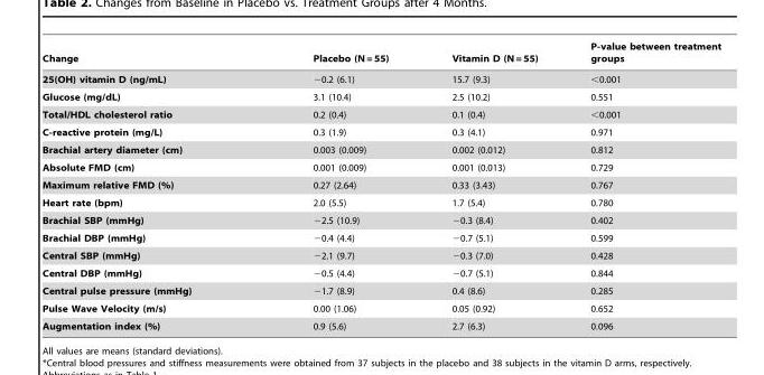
<table><thead><tr><td>Change</td><td>Placebo (N = 55)</td><td>Vitamin D (N = 55)</td><td>P-value between treatment groups</td></tr></thead><tbody><tr><td>25(OH) vitamin D (ng/mL)</td><td>−0.2 (6.1)</td><td>15.7 (9.3)</td><td>&lt;0.001</td></tr><tr><td>Glucose (mg/dL)</td><td>3.1 (10.4)</td><td>2.5 (10.2)</td><td>0.551</td></tr><tr><td>Total/HDL cholesterol ratio</td><td>0.2 (0.4)</td><td>0.1 (0.4)</td><td>&lt;0.001</td></tr><tr><td>C-reactive protein (mg/L)</td><td>0.3 (1.9)</td><td>0.3 (4.1)</td><td>0.971</td></tr><tr><td>Brachial artery diameter (cm)</td><td>0.003 (0.009)</td><td>0.002 (0.012)</td><td>0.812</td></tr><tr><td>Absolute FMD (cm)</td><td>0.001 (0.009)</td><td>0.001 (0.013)</td><td>0.729</td></tr><tr><td>Maximum relative FMD (%)</td><td>0.27 (2.64)</td><td>0.33 (3.43)</td><td>0.767</td></tr><tr><td>Heart rate (bpm)</td><td>2.0 (5.5)</td><td>1.7 (5.4)</td><td>0.780</td></tr><tr><td>Brachial SBP (mmHg)</td><td>−2.5 (10.9)</td><td>−0.3 (8.4)</td><td>0.402</td></tr><tr><td>Brachial DBP (mmHg)</td><td>−0.4 (4.4)</td><td>−0.7 (5.1)</td><td>0.599</td></tr><tr><td>Central SBP (mmHg)</td><td>−2.1 (9.7)</td><td>−0.3 (7.0)</td><td>0.428</td></tr><tr><td>Central DBP (mmHg)</td><td>−0.5 (4.4)</td><td>−0.7 (5.1)</td><td>0.844</td></tr><tr><td>Central pulse pressure (mmHg)</td><td>−1.7 (8.9)</td><td>0.4 (8.6)</td><td>0.285</td></tr><tr><td>Pulse Wave Velocity (m/s)</td><td>0.00 (1.06)</td><td>0.05 (0.92)</td><td>0.652</td></tr><tr><td>Augmentation index (%)</td><td>0.9 (5.6)</td><td>2.7 (6.3)</td><td>0.096</td></tr></tbody></table>